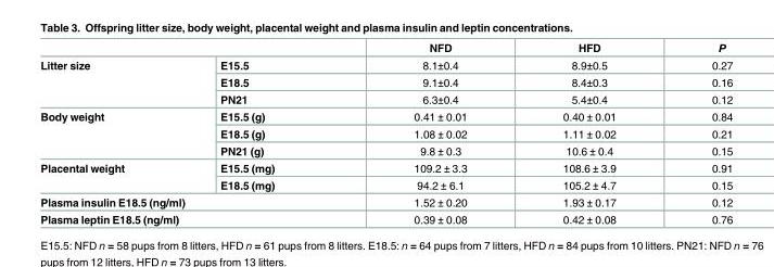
<table><thead><tr><td></td><td></td><td>NFD</td><td>HFD</td><td>P</td></tr></thead><tbody><tr><td rowspan="3">Litter size</td><td>E15.5</td><td>8.1±0.4</td><td>8.9±0.5</td><td>0.27</td></tr><tr><td>E18.5</td><td>9.1±0.4</td><td>8.4±0.3</td><td>0.16</td></tr><tr><td>PN21</td><td>6.3±0.4</td><td>5.4±0.4</td><td>0.12</td></tr><tr><td rowspan="3">Body weight</td><td>E15.5 (g)</td><td>0.41 ± 0.01</td><td>0.40 ± 0.01</td><td>0.84</td></tr><tr><td>E18.5 (g)</td><td>1.08 ± 0.02</td><td>1.11 ± 0.02</td><td>0.21</td></tr><tr><td>PN21 (g)</td><td>9.8 ± 0.3</td><td>10.6 ± 0.4</td><td>0.15</td></tr><tr><td rowspan="2">Placental weight</td><td>E15.5 (mg)</td><td>109.2 ± 3.3</td><td>108.6 ± 3.9</td><td>0.91</td></tr><tr><td>E18.5 (mg)</td><td>94.2 ± 6.1</td><td>105.2 ± 4.7</td><td>0.15</td></tr><tr><td colspan="2">Plasma insulin E18.5 (ng/ml)</td><td>1.52 ± 0.20</td><td>1.93 ± 0.17</td><td>0.12</td></tr><tr><td colspan="2">Plasma leptin E18.5 (ng/ml)</td><td>0.39 ± 0.08</td><td>0.42 ± 0.08</td><td>0.76</td></tr></tbody></table>